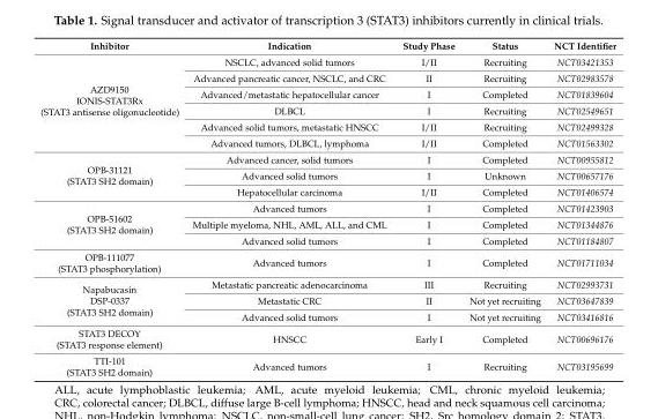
<table><thead><tr><td>Inhibitor</td><td>Indication</td><td>Study Phase</td><td>Status</td><td>NCT Identifier</td></tr></thead><tbody><tr><td rowspan="6">AZD9150 IONIS-STAT3Rx (STAT3 antisense oligonucleotide)</td><td>NSCLC, advanced solid tumors</td><td>I/II</td><td>Recruiting</td><td>NCT03421353</td></tr><tr><td>Advanced pancreatic cancer, NSCLC, and CRC</td><td>II</td><td>Recruiting</td><td>NCT02983578</td></tr><tr><td>Advanced/metastatic hepatocellular cancer</td><td>I</td><td>Completed</td><td>NCT01839604</td></tr><tr><td>DLBCL</td><td>I</td><td>Recruiting</td><td>NCT02549651</td></tr><tr><td>Advanced solid tumors, metastatic HNSCC</td><td>I/II</td><td>Recruiting</td><td>NCT02499328</td></tr><tr><td>Advanced tumors, DLBCL, lymphoma</td><td>I/II</td><td>Completed</td><td>NCT01563302</td></tr><tr><td rowspan="3">OPB-31121 (STAT3 SH2 domain)</td><td>Advanced cancer, solid tumors</td><td>I</td><td>Completed</td><td>NCT00955812</td></tr><tr><td>Advanced solid tumors</td><td>I</td><td>Unknown</td><td>NCT00657176</td></tr><tr><td>Hepatocellular carcinoma</td><td>I/II</td><td>Completed</td><td>NCT01406574</td></tr><tr><td rowspan="3">OPB-51602 (STAT3 SH2 domain)</td><td>Advanced tumors</td><td>I</td><td>Completed</td><td>NCT01423903</td></tr><tr><td>Multiple myeloma, NHL, AML, ALL, and CML</td><td>I</td><td>Completed</td><td>NCT01344876</td></tr><tr><td>Advanced solid tumors</td><td>I</td><td>Completed</td><td>NCT01184807</td></tr><tr><td>OPB-111077 (STAT3 phosphorylation)</td><td>Advanced tumors</td><td>I</td><td>Completed</td><td>NCT01711034</td></tr><tr><td rowspan="3">Napabucasin DSP-0337 (STAT3 SH2 domain)</td><td>Metastatic pancreatic adenocarcinoma</td><td>III</td><td>Recruiting</td><td>NCT02993731</td></tr><tr><td>Metastatic CRC</td><td>II</td><td>Not yet recruiting</td><td>NCT03647839</td></tr><tr><td>Advanced solid tumors</td><td>I</td><td>Not yet recruiting</td><td>NCT03416816</td></tr><tr><td>STAT3 DECOY (STAT3 response element)</td><td>HNSCC</td><td>Early I</td><td>Completed</td><td>NCT00696176</td></tr><tr><td>TTI-101 (STAT3 SH2 domain)</td><td>Advanced tumors</td><td>I</td><td>Recruiting</td><td>NCT03195699</td></tr></tbody></table>